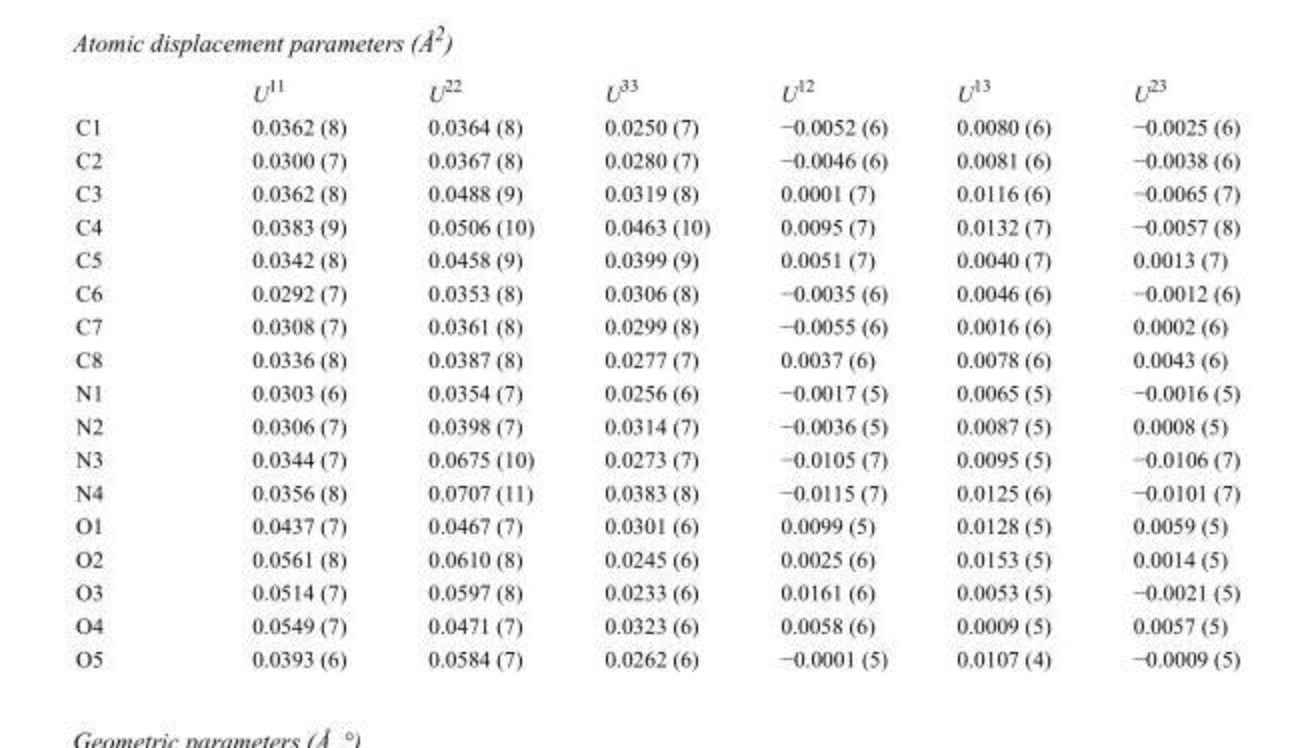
<table><thead><tr><td></td><td>U<sup>11</sup></td><td>U<sup>22</sup></td><td>U<sup>33</sup></td><td>U<sup>12</sup></td><td>U<sup>13</sup></td><td>U<sup>23</sup></td></tr></thead><tbody><tr><td>C1</td><td>0.0362 (8)</td><td>0.0364 (8)</td><td>0.0250 (7)</td><td>−0.0052 (6)</td><td>0.0080 (6)</td><td>−0.0025 (6)</td></tr><tr><td>C2</td><td>0.0300 (7)</td><td>0.0367 (8)</td><td>0.0280 (7)</td><td>−0.0046 (6)</td><td>0.0081 (6)</td><td>−0.0038 (6)</td></tr><tr><td>C3</td><td>0.0362 (8)</td><td>0.0488 (9)</td><td>0.0319 (8)</td><td>0.0001 (7)</td><td>0.0116 (6)</td><td>−0.0065 (7)</td></tr><tr><td>C4</td><td>0.0383 (9)</td><td>0.0506 (10)</td><td>0.0463 (10)</td><td>0.0095 (7)</td><td>0.0132 (7)</td><td>−0.0057 (8)</td></tr><tr><td>C5</td><td>0.0342 (8)</td><td>0.0458 (9)</td><td>0.0399 (9)</td><td>0.0051 (7)</td><td>0.0040 (7)</td><td>0.0013 (7)</td></tr><tr><td>C6</td><td>0.0292 (7)</td><td>0.0353 (8)</td><td>0.0306 (8)</td><td>−0.0035 (6)</td><td>0.0046 (6)</td><td>−0.0012 (6)</td></tr><tr><td>C7</td><td>0.0308 (7)</td><td>0.0361 (8)</td><td>0.0299 (8)</td><td>−0.0055 (6)</td><td>0.0016 (6)</td><td>0.0002 (6)</td></tr><tr><td>C8</td><td>0.0336 (8)</td><td>0.0387 (8)</td><td>0.0277 (7)</td><td>0.0037 (6)</td><td>0.0078 (6)</td><td>0.0043 (6)</td></tr><tr><td>N1</td><td>0.0303 (6)</td><td>0.0354 (7)</td><td>0.0256 (6)</td><td>−0.0017 (5)</td><td>0.0065 (5)</td><td>−0.0016 (5)</td></tr><tr><td>N2</td><td>0.0306 (7)</td><td>0.0398 (7)</td><td>0.0314 (7)</td><td>−0.0036 (5)</td><td>0.0087 (5)</td><td>0.0008 (5)</td></tr><tr><td>N3</td><td>0.0344 (7)</td><td>0.0675 (10)</td><td>0.0273 (7)</td><td>−0.0105 (7)</td><td>0.0095 (5)</td><td>−0.0106 (7)</td></tr><tr><td>N4</td><td>0.0356 (8)</td><td>0.0707 (11)</td><td>0.0383 (8)</td><td>−0.0115 (7)</td><td>0.0125 (6)</td><td>−0.0101 (7)</td></tr><tr><td>O1</td><td>0.0437 (7)</td><td>0.0467 (7)</td><td>0.0301 (6)</td><td>0.0099 (5)</td><td>0.0128 (5)</td><td>0.0059 (5)</td></tr><tr><td>O2</td><td>0.0561 (8)</td><td>0.0610 (8)</td><td>0.0245 (6)</td><td>0.0025 (6)</td><td>0.0153 (5)</td><td>0.0014 (5)</td></tr><tr><td>O3</td><td>0.0514 (7)</td><td>0.0597 (8)</td><td>0.0233 (6)</td><td>0.0161 (6)</td><td>0.0053 (5)</td><td>−0.0021 (5)</td></tr><tr><td>O4</td><td>0.0549 (7)</td><td>0.0471 (7)</td><td>0.0323 (6)</td><td>0.0058 (6)</td><td>0.0009 (5)</td><td>0.0057 (5)</td></tr><tr><td>O5</td><td>0.0393 (6)</td><td>0.0584 (7)</td><td>0.0262 (6)</td><td>−0.0001 (5)</td><td>0.0107 (4)</td><td>−0.0009 (5)</td></tr></tbody></table>